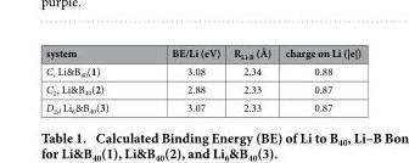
<table><thead><tr><td>system</td><td>BE/Li (eV)</td><td>R<sub>Li-B</sub> (Å)</td><td>charge on Li (|e|)</td></tr></thead><tbody><tr><td>C<sub>s</sub> Li&amp;B<sub>40</sub>(1)</td><td>3.08</td><td>2.34</td><td>0.88</td></tr><tr><td>C<sub>2v</sub> Li&amp;B<sub>40</sub>(2)</td><td>2.88</td><td>2.33</td><td>0.87</td></tr><tr><td>D<sub>2d</sub> Li<sub>6</sub>&amp;B<sub>40</sub>(3)</td><td>3.07</td><td>2.33</td><td>0.87</td></tr></tbody></table>